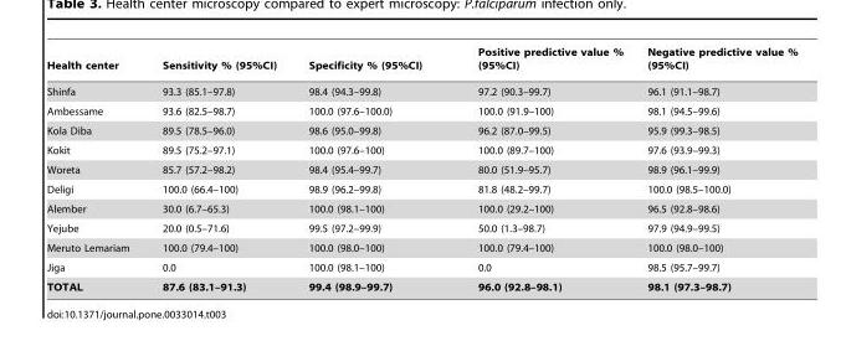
<table><thead><tr><td>Health center</td><td>Sensitivity % (95%CI)</td><td>Specificity % (95%CI)</td><td>Positive predictive value % (95%CI)</td><td>Negative predictive value % (95%CI)</td></tr></thead><tbody><tr><td>Shinfa</td><td>93.3 (85.1–97.8)</td><td>98.4 (94.3–99.8)</td><td>97.2 (90.3–99.7)</td><td>96.1 (91.1–98.7)</td></tr><tr><td>Ambessame</td><td>93.6 (82.5–98.7)</td><td>100.0 (97.6–100.0)</td><td>100.0 (91.9–100)</td><td>98.1 (94.5–99.6)</td></tr><tr><td>Kola Diba</td><td>89.5 (78.5–96.0)</td><td>98.6 (95.0–99.8)</td><td>96.2 (87.0–99.5)</td><td>95.9 (99.3–98.5)</td></tr><tr><td>Kokit</td><td>89.5 (75.2–97.1)</td><td>100.0 (97.6–100)</td><td>100.0 (89.7–100)</td><td>97.6 (93.9–99.3)</td></tr><tr><td>Woreta</td><td>85.7 (57.2–98.2)</td><td>98.4 (95.4–99.7)</td><td>80.0 (51.9–95.7)</td><td>98.9 (96.1–99.9)</td></tr><tr><td>Deligi</td><td>100.0 (66.4–100)</td><td>98.9 (96.2–99.8)</td><td>81.8 (48.2–99.7)</td><td>100.0 (98.5–100.0)</td></tr><tr><td>Alember</td><td>30.0 (6.7–65.3)</td><td>100.0 (98.1–100)</td><td>100.0 (29.2–100)</td><td>96.5 (92.8–98.6)</td></tr><tr><td>Yejube</td><td>20.0 (0.5–71.6)</td><td>99.5 (97.2–99.9)</td><td>50.0 (1.3–98.7)</td><td>97.9 (94.9–99.5)</td></tr><tr><td>Meruto Lemariam</td><td>100.0 (79.4–100)</td><td>100.0 (98.0–100)</td><td>100.0 (79.4–100)</td><td>100.0 (98.0–100)</td></tr><tr><td>Jiga</td><td>0.0</td><td>100.0 (98.1–100)</td><td>0.0</td><td>98.5 (95.7–99.7)</td></tr><tr><td>TOTAL</td><td>87.6 (83.1–91.3)</td><td>99.4 (98.9–99.7)</td><td>96.0 (92.8–98.1)</td><td>98.1 (97.3–98.7)</td></tr></tbody></table>